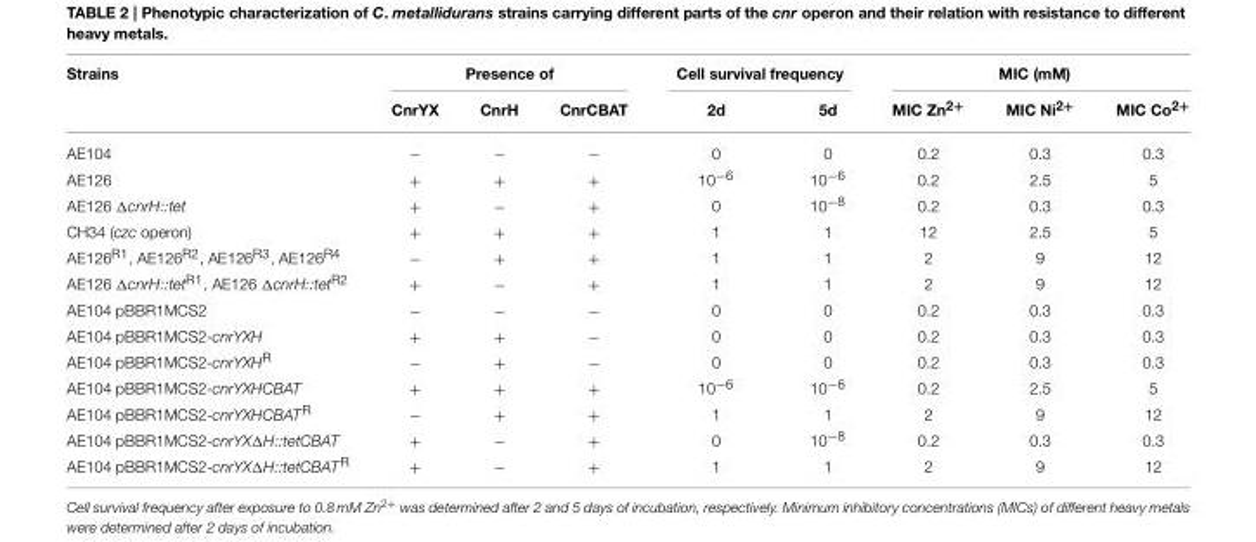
<table><thead><tr><td rowspan="2">Strains</td><td colspan="3">Presence of</td><td colspan="2">Cell survival frequency</td><td colspan="3">MIC (mM)</td></tr><tr><td>CnrYX</td><td>CnrH</td><td>CnrCBAT</td><td>2d</td><td>5d</td><td>MIC Zn<sup>2+</sup></td><td>MIC Ni<sup>2+</sup></td><td>MIC Co<sup>2+</sup></td></tr></thead><tbody><tr><td>AE104</td><td>−</td><td>−</td><td>−</td><td>0</td><td>0</td><td>0.2</td><td>0.3</td><td>0.3</td></tr><tr><td>AE126</td><td>+</td><td>+</td><td>+</td><td>10<sup>−6</sup></td><td>10<sup>−6</sup></td><td>0.2</td><td>2.5</td><td>5</td></tr><tr><td>AE126 ΔcnrH::tet</td><td>+</td><td>−</td><td>+</td><td>0</td><td>10<sup>−8</sup></td><td>0.2</td><td>0.3</td><td>0.3</td></tr><tr><td>CH34 (czc operon)</td><td>+</td><td>+</td><td>+</td><td>1</td><td>1</td><td>12</td><td>2.5</td><td>5</td></tr><tr><td>AE126<sup>R1</sup>, AE126<sup>R2</sup>, AE126<sup>R3</sup>, AE126<sup>R4</sup></td><td>−</td><td>+</td><td>+</td><td>1</td><td>1</td><td>2</td><td>9</td><td>12</td></tr><tr><td>AE126 ΔcnrH::tet<sup>R1</sup>, AE126 ΔcnrH::tet<sup>R2</sup></td><td>+</td><td>−</td><td>+</td><td>1</td><td>1</td><td>2</td><td>9</td><td>12</td></tr><tr><td>AE104 pBBR1MCS2</td><td>−</td><td>−</td><td>−</td><td>0</td><td>0</td><td>0.2</td><td>0.3</td><td>0.3</td></tr><tr><td>AE104 pBBR1MCS2-cnrYXH</td><td>+</td><td>+</td><td>−</td><td>0</td><td>0</td><td>0.2</td><td>0.3</td><td>0.3</td></tr><tr><td>AE104 pBBR1MCS2-cnrYXH<sup>R</sup></td><td>−</td><td>+</td><td>−</td><td>0</td><td>0</td><td>0.2</td><td>0.3</td><td>0.3</td></tr><tr><td>AE104 pBBR1MCS2-cnrYXHCBAT</td><td>+</td><td>+</td><td>+</td><td>10<sup>−6</sup></td><td>10<sup>−6</sup></td><td>0.2</td><td>2.5</td><td>5</td></tr><tr><td>AE104 pBBR1MCS2-cnrYXHCBAT<sup>R</sup></td><td>−</td><td>+</td><td>+</td><td>1</td><td>1</td><td>2</td><td>9</td><td>12</td></tr><tr><td>AE104 pBBR1MCS2-cnrYXΔH::tetCBAT</td><td>+</td><td>−</td><td>+</td><td>0</td><td>10<sup>−8</sup></td><td>0.2</td><td>0.3</td><td>0.3</td></tr><tr><td>AE104 pBBR1MCS2-cnrYXΔH::tetCBAT<sup>R</sup></td><td>+</td><td>−</td><td>+</td><td>1</td><td>1</td><td>2</td><td>9</td><td>12</td></tr></tbody></table>